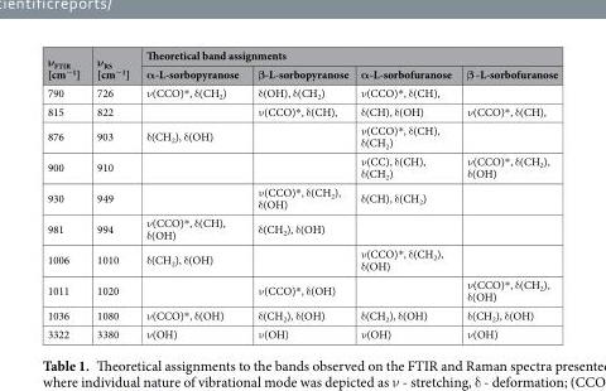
<table><thead><tr><td rowspan="2">ν<sub>FTIR</sub> [cm<sup>−1</sup>]</td><td rowspan="2">ν<sub>RS</sub> [cm<sup>−1</sup>]</td><td colspan="4">Theoretical band assignments</td></tr><tr><td>α-L-sorbopyranose</td><td>β-L-sorbopyranose</td><td>α-L-sorbofuranose</td><td>β -L-sorbofuranose</td></tr></thead><tbody><tr><td>790</td><td>726</td><td>ν(CCO)*, δ(CH<sub>2</sub>)</td><td>δ(OH), δ(CH<sub>2</sub>)</td><td>ν(CCO)*, δ(CH),</td><td></td></tr><tr><td>815</td><td>822</td><td></td><td>ν(CCO)*, δ(CH),</td><td>δ(CH), δ(OH)</td><td>ν(CCO)*, δ(CH),</td></tr><tr><td>876</td><td>903</td><td>δ(CH<sub>2</sub>), δ(OH)</td><td></td><td>ν(CCO)*, δ(CH), δ(CH<sub>2</sub>)</td><td></td></tr><tr><td>900</td><td>910</td><td></td><td></td><td>ν(CC), δ(CH), δ(CH<sub>2</sub>)</td><td>ν(CCO)*, δ(CH<sub>2</sub>), δ(OH)</td></tr><tr><td>930</td><td>949</td><td></td><td>ν(CCO)*, δ(CH<sub>2</sub>), δ(OH)</td><td>δ(CH), δ(CH<sub>2</sub>)</td><td></td></tr><tr><td>981</td><td>994</td><td>ν(CCO)*, δ(CH), δ(OH)</td><td>δ(CH<sub>2</sub>), δ(OH)</td><td></td><td></td></tr><tr><td>1006</td><td>1010</td><td>δ(CH<sub>2</sub>), δ(OH)</td><td></td><td>ν(CCO)*, δ(CH<sub>2</sub>), δ(OH)</td><td></td></tr><tr><td>1011</td><td>1020</td><td></td><td>ν(CCO)*, δ(OH)</td><td></td><td>ν(CCO)*, δ(CH<sub>2</sub>), δ(OH)</td></tr><tr><td>1036</td><td>1080</td><td>ν(CCO)*, δ(OH)</td><td>δ(CH<sub>2</sub>), δ(OH)</td><td>δ(CH<sub>2</sub>), δ(OH)</td><td>δ(CH<sub>2</sub>), δ(OH)</td></tr><tr><td>3322</td><td>3380</td><td>ν(OH)</td><td>ν(OH)</td><td>ν(OH)</td><td>ν(OH)</td></tr></tbody></table>